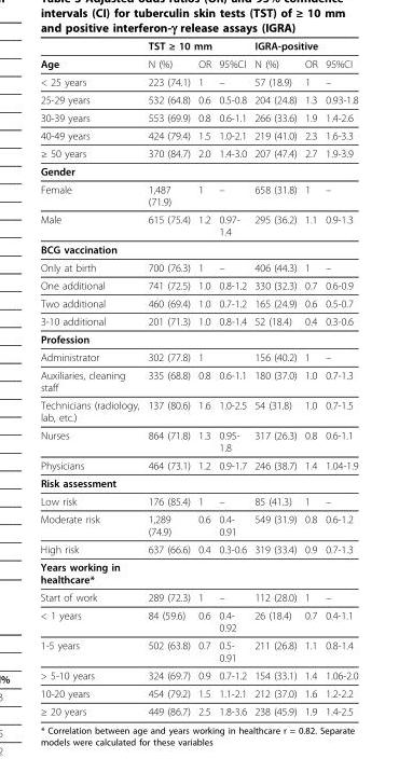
<table><thead><tr><td rowspan="2">Age</td><td colspan="3">TST ≥ 10 mm</td><td colspan="3">IGRA-positive</td></tr><tr><td>N (%)</td><td>OR</td><td>95%CI</td><td>N (%)</td><td>OR</td><td>95%CI</td></tr></thead><tbody><tr><td>&lt; 25 years</td><td>223 (74.1)</td><td>1</td><td>–</td><td>57 (18.9)</td><td>1</td><td>–</td></tr><tr><td>25-29 years</td><td>532 (64.8)</td><td>0.6</td><td>0.5-0.8</td><td>204 (24.8)</td><td>1.3</td><td>0.93-1.8</td></tr><tr><td>30-39 years</td><td>553 (69.9)</td><td>0.8</td><td>0.6-1.1</td><td>266 (33.6)</td><td>1.9</td><td>1.4-2.6</td></tr><tr><td>40-49 years</td><td>424 (79.4)</td><td>1.5</td><td>1.0-2.1</td><td>219 (41.0)</td><td>2.3</td><td>1.6-3.3</td></tr><tr><td>≥ 50 years</td><td>370 (84.7)</td><td>2.0</td><td>1.4-3.0</td><td>207 (47.4)</td><td>2.7</td><td>1.9-3.9</td></tr><tr><td colspan="7">Gender</td></tr><tr><td>Female</td><td>1,487 (71.9)</td><td>1</td><td>–</td><td>658 (31.8)</td><td>1</td><td>–</td></tr><tr><td>Male</td><td>615 (75.4)</td><td>1.2</td><td>0.97- 1.4</td><td>295 (36.2)</td><td>1.1</td><td>0.9-1.3</td></tr><tr><td colspan="7">BCG vaccination</td></tr><tr><td>Only at birth</td><td>700 (76.3)</td><td>1</td><td>–</td><td>406 (44.3)</td><td>1</td><td>–</td></tr><tr><td>One additional</td><td>741 (72.5)</td><td>1.0</td><td>0.8-1.2</td><td>330 (32.3)</td><td>0.7</td><td>0.6-0.9</td></tr><tr><td>Two additional</td><td>460 (69.4)</td><td>1.0</td><td>0.7-1.2</td><td>165 (24.9)</td><td>0.6</td><td>0.5-0.7</td></tr><tr><td>3-10 additional</td><td>201 (71.3)</td><td>1.0</td><td>0.8-1.4</td><td>52 (18.4)</td><td>0.4</td><td>0.3-0.6</td></tr><tr><td colspan="7">Profession</td></tr><tr><td>Administrator</td><td>302 (77.8)</td><td>1</td><td></td><td>156 (40.2)</td><td>1</td><td>–</td></tr><tr><td>Auxiliaries, cleaning staff</td><td>335 (68.8)</td><td>0.8</td><td>0.6-1.1</td><td>180 (37.0)</td><td>1.0</td><td>0.7-1.3</td></tr><tr><td>Technicians (radiology, lab, etc.)</td><td>137 (80.6)</td><td>1.6</td><td>1.0-2.5</td><td>54 (31.8)</td><td>1.0</td><td>0.7-1.5</td></tr><tr><td>Nurses</td><td>864 (71.8)</td><td>1.3</td><td>0.95- 1.8</td><td>317 (26.3)</td><td>0.8</td><td>0.6-1.1</td></tr><tr><td>Physicians</td><td>464 (73.1)</td><td>1.2</td><td>0.9-1.7</td><td>246 (38.7)</td><td>1.4</td><td>1.04-1.9</td></tr><tr><td colspan="7">Risk assessment</td></tr><tr><td>Low risk</td><td>176 (85.4)</td><td>1</td><td>–</td><td>85 (41.3)</td><td>1</td><td>–</td></tr><tr><td>Moderate risk</td><td>1,289 (74.9)</td><td>0.6</td><td>0.4- 0.91</td><td>549 (31.9)</td><td>0.8</td><td>0.6-1.2</td></tr><tr><td>High risk</td><td>637 (66.6)</td><td>0.4</td><td>0.3-0.6</td><td>319 (33.4)</td><td>0.9</td><td>0.7-1.3</td></tr><tr><td colspan="7">Years working in healthcare*</td></tr><tr><td>Start of work</td><td>289 (72.3)</td><td>1</td><td>–</td><td>112 (28.0)</td><td>1</td><td>–</td></tr><tr><td>&lt; 1 years</td><td>84 (59.6)</td><td>0.6</td><td>0.4- 0.92</td><td>26 (18.4)</td><td>0.7</td><td>0.4-1.1</td></tr><tr><td>1-5 years</td><td>502 (63.8)</td><td>0.7</td><td>0.5- 0.91</td><td>211 (26.8)</td><td>1.1</td><td>0.8-1.4</td></tr><tr><td>&gt; 5-10 years</td><td>324 (69.7)</td><td>0.9</td><td>0.7-1.2</td><td>154 (33.1)</td><td>1.4</td><td>1.06-2.0</td></tr><tr><td>10-20 years</td><td>454 (79.2)</td><td>1.5</td><td>1.1-2.1</td><td>212 (37.0)</td><td>1.6</td><td>1.2-2.2</td></tr><tr><td>≥ 20 years</td><td>449 (86.7)</td><td>2.5</td><td>1.8-3.6</td><td>238 (45.9)</td><td>1.9</td><td>1.4-2.5</td></tr></tbody></table>